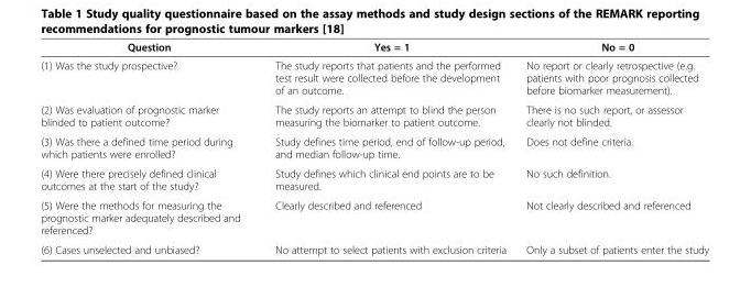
<table><thead><tr><td>Question</td><td>Yes = 1</td><td>No = 0</td></tr></thead><tbody><tr><td>(1) Was the study prospective?</td><td>The study reports that patients and the performed test result were collected before the development of an outcome.</td><td>No report or clearly retrospective (e.g. patients with poor prognosis collected before biomarker measurement).</td></tr><tr><td>(2) Was evaluation of prognostic marker blinded to patient outcome?</td><td>The study reports an attempt to blind the person measuring the biomarker to patient outcome.</td><td>There is no such report, or assessor clearly not blinded.</td></tr><tr><td>(3) Was there a defined time period during which patients were enrolled?</td><td>Study defines time period, end of follow-up period, and median follow-up time.</td><td>Does not define criteria.</td></tr><tr><td>(4) Were there precisely defined clinical outcomes at the start of the study?</td><td>Study defines which clinical end points are to be measured.</td><td>No such definition.</td></tr><tr><td>(5) Were the methods for measuring the prognostic marker adequately described and referenced?</td><td>Clearly described and referenced</td><td>Not clearly described and referenced</td></tr><tr><td>(6) Cases unselected and unbiased?</td><td>No attempt to select patients with exclusion criteria</td><td>Only a subset of patients enter the study</td></tr></tbody></table>